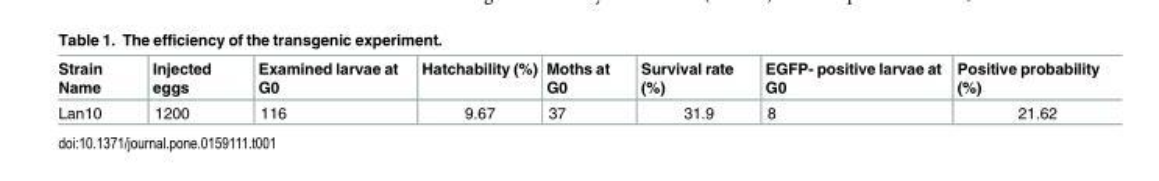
<table><thead><tr><td>Strain Name</td><td>Injected eggs</td><td>Examined larvae at G0</td><td>Hatchability (%)</td><td>Moths at G0</td><td>Survival rate (%)</td><td>EGFP- positive larvae at G0</td><td>Positive probability (%)</td></tr></thead><tbody><tr><td>Lan10</td><td>1200</td><td>116</td><td>9.67</td><td>37</td><td>31.9</td><td>8</td><td>21.62</td></tr></tbody></table>